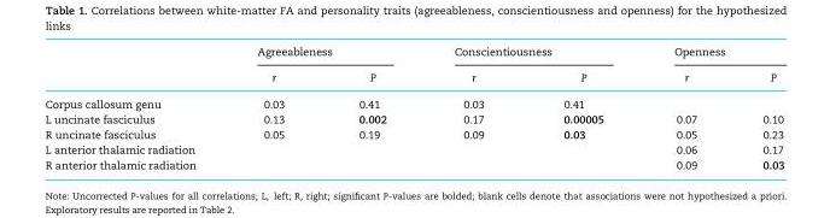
<table><thead><tr><td rowspan="2"></td><td colspan="2">Agreeableness</td><td colspan="2">Conscientiousness</td><td colspan="2">Openness</td></tr><tr><td>r</td><td>P</td><td>r</td><td>P</td><td>r</td><td>P</td></tr></thead><tbody><tr><td>Corpus callosum genu</td><td>0.03</td><td>0.41</td><td>0.03</td><td>0.41</td><td></td><td></td></tr><tr><td>L uncinate fasciculus</td><td>0.13</td><td>0.002</td><td>0.17</td><td>0.00005</td><td>0.07</td><td>0.10</td></tr><tr><td>R uncinate fasciculus</td><td>0.05</td><td>0.19</td><td>0.09</td><td>0.03</td><td>0.05</td><td>0.23</td></tr><tr><td>L anterior thalamic radiation</td><td></td><td></td><td></td><td></td><td>0.06</td><td>0.17</td></tr><tr><td>R anterior thalamic radiation</td><td></td><td></td><td></td><td></td><td>0.09</td><td>0.03</td></tr></tbody></table>